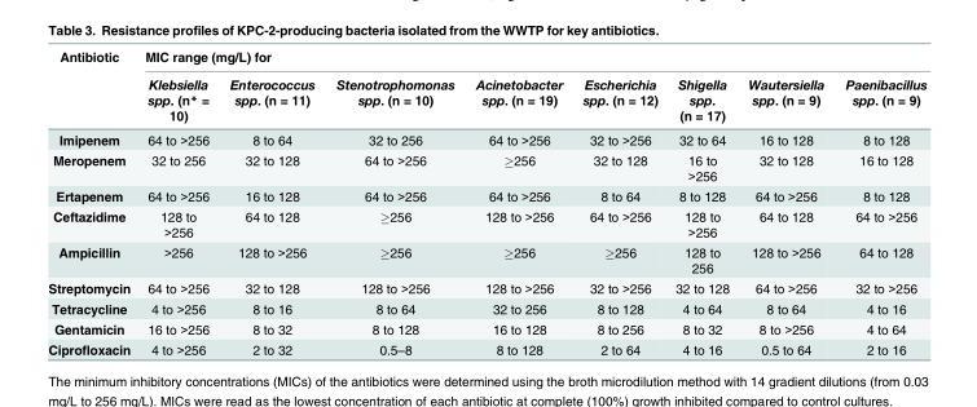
<table><thead><tr><td rowspan="2">Antibiotic</td><td colspan="8">MIC range (mg/L) for</td></tr><tr><td>Klebsiella spp. (n* = 10)</td><td>Enterococcus spp. (n = 11)</td><td>Stenotrophomonas spp. (n = 10)</td><td>Acinetobacter spp. (n = 19)</td><td>Escherichia spp. (n = 12)</td><td>Shigella spp. (n = 17)</td><td>Wautersiella spp. (n = 9)</td><td>Paenibacillus spp. (n = 9)</td></tr></thead><tbody><tr><td>Imipenem</td><td>64 to &gt;256</td><td>8 to 64</td><td>32 to 256</td><td>64 to &gt;256</td><td>32 to &gt;256</td><td>32 to 64</td><td>16 to 128</td><td>8 to 128</td></tr><tr><td>Meropenem</td><td>32 to 256</td><td>32 to 128</td><td>64 to &gt;256</td><td>≥256</td><td>32 to 128</td><td>16 to &gt;256</td><td>32 to 128</td><td>16 to 128</td></tr><tr><td>Ertapenem</td><td>64 to &gt;256</td><td>16 to 128</td><td>64 to &gt;256</td><td>64 to &gt;256</td><td>8 to 64</td><td>8 to 128</td><td>64 to &gt;256</td><td>8 to 128</td></tr><tr><td>Ceftazidime</td><td>128 to &gt;256</td><td>64 to 128</td><td>≥256</td><td>128 to &gt;256</td><td>64 to &gt;256</td><td>128 to &gt;256</td><td>64 to 128</td><td>64 to &gt;256</td></tr><tr><td>Ampicillin</td><td>&gt;256</td><td>128 to &gt;256</td><td>≥256</td><td>≥256</td><td>≥256</td><td>128 to 256</td><td>128 to &gt;256</td><td>64 to 128</td></tr><tr><td>Streptomycin</td><td>64 to &gt;256</td><td>32 to 128</td><td>128 to &gt;256</td><td>128 to &gt;256</td><td>32 to &gt;256</td><td>32 to 128</td><td>64 to &gt;256</td><td>32 to &gt;256</td></tr><tr><td>Tetracycline</td><td>4 to &gt;256</td><td>8 to 16</td><td>8 to 64</td><td>32 to 256</td><td>8 to 128</td><td>4 to 64</td><td>8 to 64</td><td>4 to 16</td></tr><tr><td>Gentamicin</td><td>16 to &gt;256</td><td>8 to 32</td><td>8 to 128</td><td>16 to 128</td><td>8 to 256</td><td>8 to 32</td><td>8 to &gt;256</td><td>4 to 64</td></tr><tr><td>Ciprofloxacin</td><td>4 to &gt;256</td><td>2 to 32</td><td>0.5–8</td><td>8 to 128</td><td>2 to 64</td><td>4 to 16</td><td>0.5 to 64</td><td>2 to 16</td></tr></tbody></table>